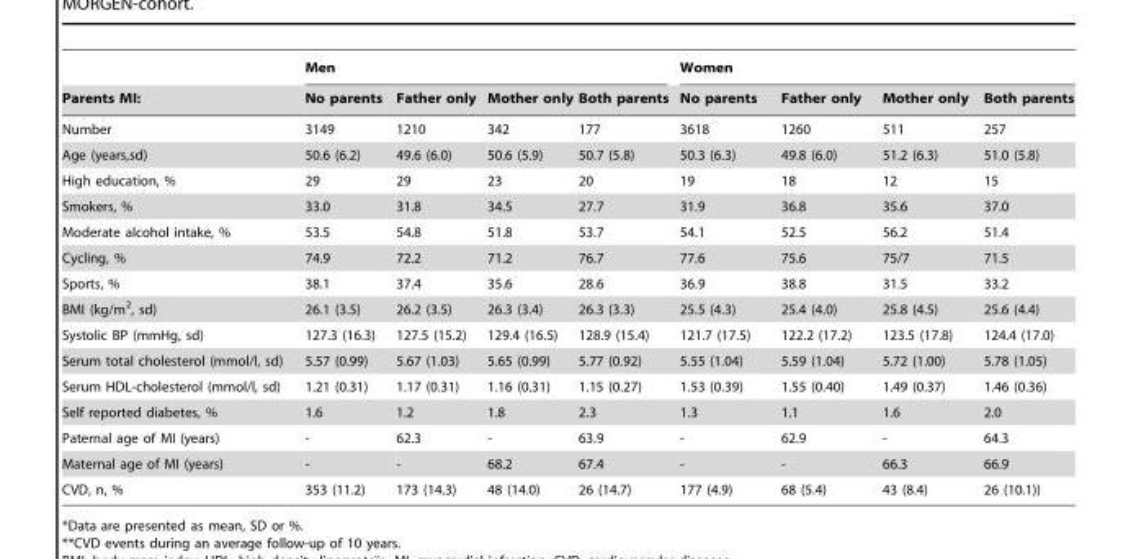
<table><thead><tr><td rowspan="2">Parents MI:</td><td colspan="4">Men</td><td colspan="4">Women</td></tr><tr><td>No parents</td><td>Father only</td><td>Mother only</td><td>Both parents</td><td>No parents</td><td>Father only</td><td>Mother only</td><td>Both parents</td></tr></thead><tbody><tr><td>Number</td><td>3149</td><td>1210</td><td>342</td><td>177</td><td>3618</td><td>1260</td><td>511</td><td>257</td></tr><tr><td>Age (years,sd)</td><td>50.6 (6.2)</td><td>49.6 (6.0)</td><td>50.6 (5.9)</td><td>50.7 (5.8)</td><td>50.3 (6.3)</td><td>49.8 (6.0)</td><td>51.2 (6.3)</td><td>51.0 (5.8)</td></tr><tr><td>High education, %</td><td>29</td><td>29</td><td>23</td><td>20</td><td>19</td><td>18</td><td>12</td><td>15</td></tr><tr><td>Smokers, %</td><td>33.0</td><td>31.8</td><td>34.5</td><td>27.7</td><td>31.9</td><td>36.8</td><td>35.6</td><td>37.0</td></tr><tr><td>Moderate alcohol intake, %</td><td>53.5</td><td>54.8</td><td>51.8</td><td>53.7</td><td>54.1</td><td>52.5</td><td>56.2</td><td>51.4</td></tr><tr><td>Cycling, %</td><td>74.9</td><td>72.2</td><td>71.2</td><td>76.7</td><td>77.6</td><td>75.6</td><td>75/7</td><td>71.5</td></tr><tr><td>Sports, %</td><td>38.1</td><td>37.4</td><td>35.6</td><td>28.6</td><td>36.9</td><td>38.8</td><td>31.5</td><td>33.2</td></tr><tr><td>BMI (kg/m<sup>2</sup>, sd)</td><td>26.1 (3.5)</td><td>26.2 (3.5)</td><td>26.3 (3.4)</td><td>26.3 (3.3)</td><td>25.5 (4.3)</td><td>25.4 (4.0)</td><td>25.8 (4.5)</td><td>25.6 (4.4)</td></tr><tr><td>Systolic BP (mmHg, sd)</td><td>127.3 (16.3)</td><td>127.5 (15.2)</td><td>129.4 (16.5)</td><td>128.9 (15.4)</td><td>121.7 (17.5)</td><td>122.2 (17.2)</td><td>123.5 (17.8)</td><td>124.4 (17.0)</td></tr><tr><td>Serum total cholesterol (mmol/l, sd)</td><td>5.57 (0.99)</td><td>5.67 (1.03)</td><td>5.65 (0.99)</td><td>5.77 (0.92)</td><td>5.55 (1.04)</td><td>5.59 (1.04)</td><td>5.72 (1.00)</td><td>5.78 (1.05)</td></tr><tr><td>Serum HDL-cholesterol (mmol/l, sd)</td><td>1.21 (0.31)</td><td>1.17 (0.31)</td><td>1.16 (0.31)</td><td>1.15 (0.27)</td><td>1.53 (0.39)</td><td>1.55 (0.40)</td><td>1.49 (0.37)</td><td>1.46 (0.36)</td></tr><tr><td>Self reported diabetes, %</td><td>1.6</td><td>1.2</td><td>1.8</td><td>2.3</td><td>1.3</td><td>1.1</td><td>1.6</td><td>2.0</td></tr><tr><td>Paternal age of MI (years)</td><td>-</td><td>62.3</td><td>-</td><td>63.9</td><td>-</td><td>62.9</td><td>-</td><td>64.3</td></tr><tr><td>Maternal age of MI (years)</td><td>-</td><td>-</td><td>68.2</td><td>67.4</td><td>-</td><td>-</td><td>66.3</td><td>66.9</td></tr><tr><td>CVD, n, %</td><td>353 (11.2)</td><td>173 (14.3)</td><td>48 (14.0)</td><td>26 (14.7)</td><td>177 (4.9)</td><td>68 (5.4)</td><td>43 (8.4)</td><td>26 (10.1))</td></tr></tbody></table>